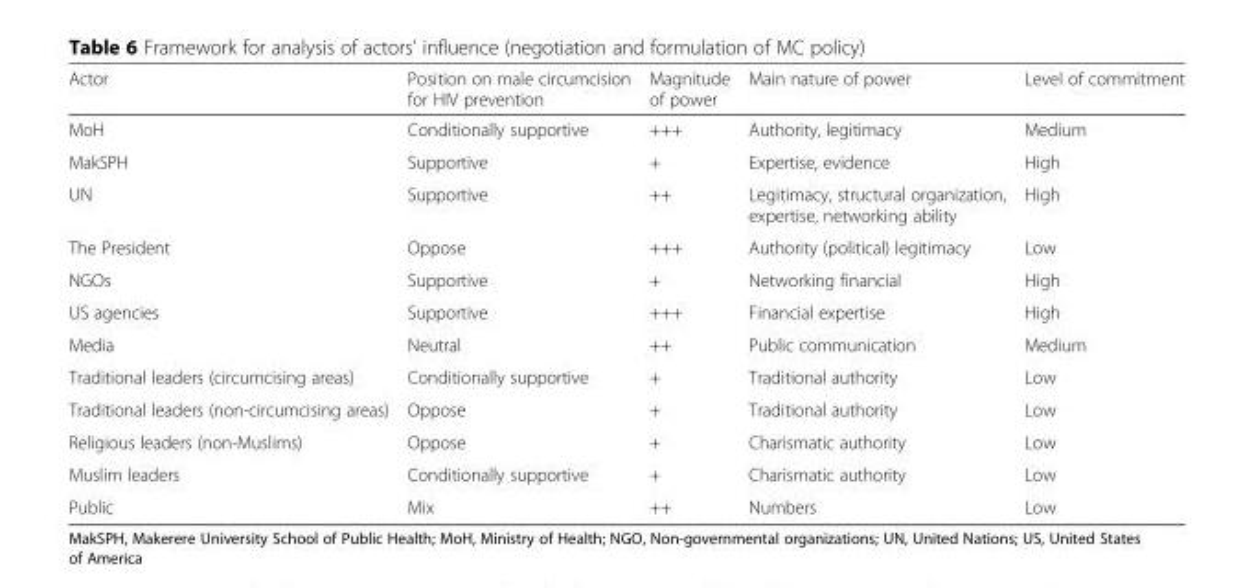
<table><thead><tr><td>Actor</td><td>Position on male circumcision for HIV prevention</td><td>Magnitude of power</td><td>Main nature of power</td><td>Level of commitment</td></tr></thead><tbody><tr><td>MoH</td><td>Conditionally supportive</td><td>+++</td><td>Authority, legitimacy</td><td>Medium</td></tr><tr><td>MakSPH</td><td>Supportive</td><td>+</td><td>Expertise, evidence</td><td>High</td></tr><tr><td>UN</td><td>Supportive</td><td>++</td><td>Legitimacy, structural organization, expertise, networking ability</td><td>High</td></tr><tr><td>The President</td><td>Oppose</td><td>+++</td><td>Authority (political) legitimacy</td><td>Low</td></tr><tr><td>NGOs</td><td>Supportive</td><td>+</td><td>Networking financial</td><td>High</td></tr><tr><td>US agencies</td><td>Supportive</td><td>+++</td><td>Financial expertise</td><td>High</td></tr><tr><td>Media</td><td>Neutral</td><td>++</td><td>Public communication</td><td>Medium</td></tr><tr><td>Traditional leaders (circumcising areas)</td><td>Conditionally supportive</td><td>+</td><td>Traditional authority</td><td>Low</td></tr><tr><td>Traditional leaders (non-circumcising areas)</td><td>Oppose</td><td>+</td><td>Traditional authority</td><td>Low</td></tr><tr><td>Religious leaders (non-Muslims)</td><td>Oppose</td><td>+</td><td>Charismatic authority</td><td>Low</td></tr><tr><td>Muslim leaders</td><td>Conditionally supportive</td><td>+</td><td>Charismatic authority</td><td>Low</td></tr><tr><td>Public</td><td>Mix</td><td>++</td><td>Numbers</td><td>Low</td></tr></tbody></table>